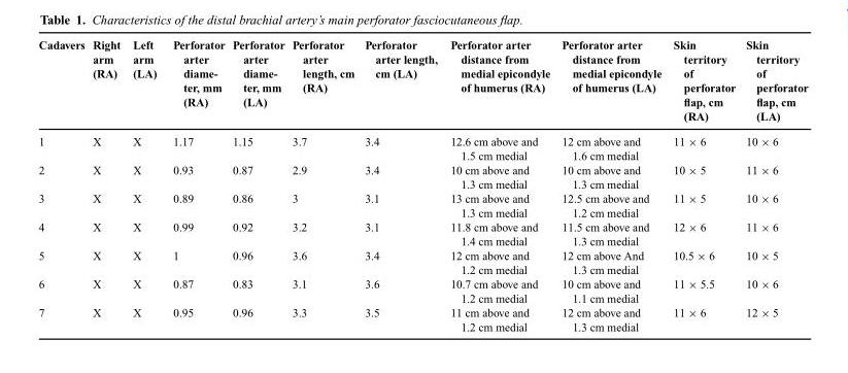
<table><thead><tr><td>Cadavers</td><td>Right arm (RA)</td><td>Left arm (LA)</td><td>Perforator arter diame- ter, mm (RA)</td><td>Perforator arter diame- ter, mm (LA)</td><td>Perforator arter length, cm (RA)</td><td>Perforator arter length, cm (LA)</td><td>Perforator arter distance from medial epicondyle of humerus (RA)</td><td>Perforator arter distance from medial epicondyle of humerus (LA)</td><td>Skin territory of perforator flap, cm (RA)</td><td>Skin territory of perforator flap, cm (LA)</td></tr></thead><tbody><tr><td>1</td><td>X</td><td>X</td><td>1.17</td><td>1.15</td><td>3.7</td><td>3.4</td><td>12.6 cm above and 1.5 cm medial</td><td>12 cm above and 1.6 cm medial</td><td>11 × 6</td><td>10 × 6</td></tr><tr><td>2</td><td>X</td><td>X</td><td>0.93</td><td>0.87</td><td>2.9</td><td>3.4</td><td>10 cm above and 1.3 cm medial</td><td>10 cm above and 1.3 cm medial</td><td>10 × 5</td><td>11 × 6</td></tr><tr><td>3</td><td>X</td><td>X</td><td>0.89</td><td>0.86</td><td>3</td><td>3.1</td><td>13 cm above and 1.3 cm medial</td><td>12.5 cm above and 1.2 cm medial</td><td>11 × 5</td><td>10 × 6</td></tr><tr><td>4</td><td>X</td><td>X</td><td>0.99</td><td>0.92</td><td>3.2</td><td>3.1</td><td>11.8 cm above and 1.4 cm medial</td><td>11.5 cm above and 1.3 cm medial</td><td>12 × 6</td><td>11 × 6</td></tr><tr><td>5</td><td>X</td><td>X</td><td>1</td><td>0.96</td><td>3.6</td><td>3.4</td><td>12 cm above and 1.2 cm medial</td><td>12 cm above And 1.3 cm medial</td><td>10.5 × 6</td><td>10 × 5</td></tr><tr><td>6</td><td>X</td><td>X</td><td>0.87</td><td>0.83</td><td>3.1</td><td>3.6</td><td>10.7 cm above and 1.2 cm medial</td><td>10 cm above and 1.1 cm medial</td><td>11 × 5.5</td><td>10 × 6</td></tr><tr><td>7</td><td>X</td><td>X</td><td>0.95</td><td>0.96</td><td>3.3</td><td>3.5</td><td>11 cm above and 1.2 cm medial</td><td>12 cm above and 1.3 cm medial</td><td>11 × 6</td><td>12 × 5</td></tr></tbody></table>